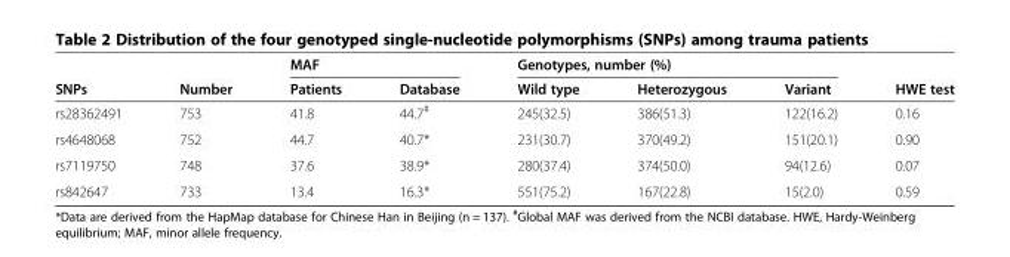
<table><thead><tr><td rowspan="2">SNPs</td><td rowspan="2">Number</td><td colspan="2">MAF</td><td colspan="3">Genotypes, number (%)</td><td rowspan="2">HWE test</td></tr><tr><td>Patients</td><td>Database</td><td>Wild type</td><td>Heterozygous</td><td>Variant</td></tr></thead><tbody><tr><td>rs28362491</td><td>753</td><td>41.8</td><td>44.7<sup>#</sup></td><td>245(32.5)</td><td>386(51.3)</td><td>122(16.2)</td><td>0.16</td></tr><tr><td>rs4648068</td><td>752</td><td>44.7</td><td>40.7*</td><td>231(30.7)</td><td>370(49.2)</td><td>151(20.1)</td><td>0.90</td></tr><tr><td>rs7119750</td><td>748</td><td>37.6</td><td>38.9*</td><td>280(37.4)</td><td>374(50.0)</td><td>94(12.6)</td><td>0.07</td></tr><tr><td>rs842647</td><td>733</td><td>13.4</td><td>16.3*</td><td>551(75.2)</td><td>167(22.8)</td><td>15(2.0)</td><td>0.59</td></tr></tbody></table>